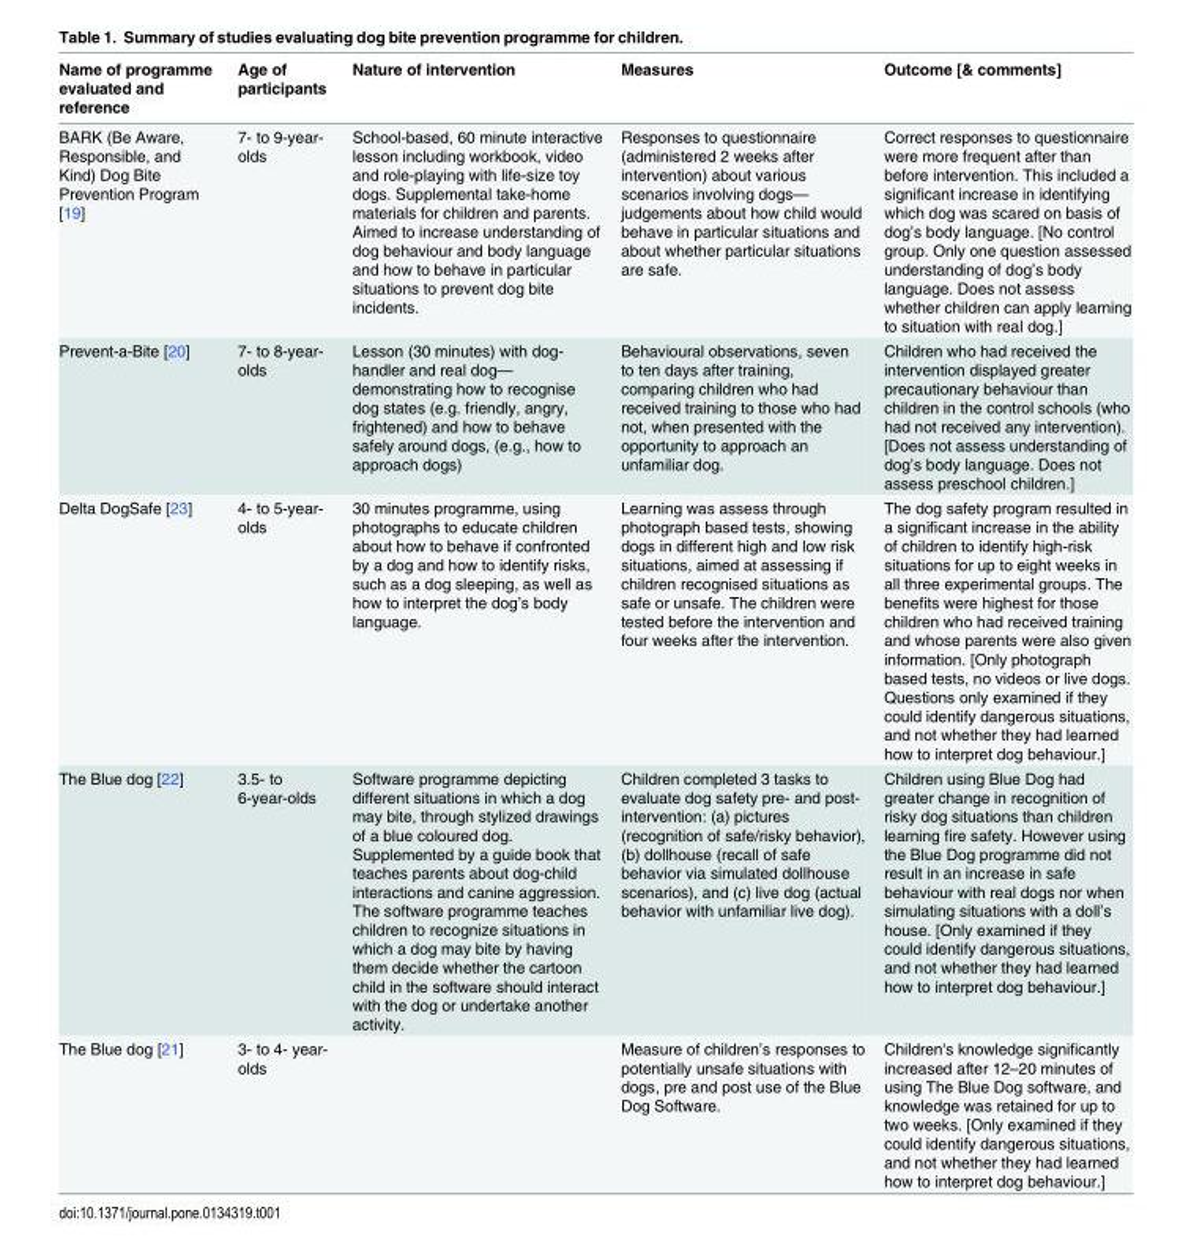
<table><thead><tr><td>Name of programme evaluated and reference</td><td>Age of participants</td><td>Nature of intervention</td><td>Measures</td><td>Outcome [&amp; comments]</td></tr></thead><tbody><tr><td>BARK (Be Aware, Responsible, and Kind) Dog Bite Prevention Program [19]</td><td>7- to 9-year- olds</td><td>School-based, 60 minute interactive lesson including workbook, video and role-playing with life-size toy dogs. Supplemental take-home materials for children and parents. Aimed to increase understanding of dog behaviour and body language and how to behave in particular situations to prevent dog bite incidents.</td><td>Responses to questionnaire (administered 2 weeks after intervention) about various scenarios involving dogs— judgements about how child would behave in particular situations and about whether particular situations are safe.</td><td>Correct responses to questionnaire were more frequent after than before intervention. This included a significant increase in identifying which dog was scared on basis of dog’s body language. [No control group. Only one question assessed understanding of dog’s body language. Does not assess whether children can apply learning to situation with real dog.]</td></tr><tr><td>Prevent-a-Bite [20]</td><td>7- to 8-year- olds</td><td>Lesson (30 minutes) with dog- handler and real dog— demonstrating how to recognise dog states (e.g. friendly, angry, frightened) and how to behave safely around dogs, (e.g., how to approach dogs)</td><td>Behavioural observations, seven to ten days after training, comparing children who had received training to those who had not, when presented with the opportunity to approach an unfamiliar dog.</td><td>Children who had received the intervention displayed greater precautionary behaviour than children in the control schools (who had not received any intervention). [Does not assess understanding of dog’s body language. Does not assess preschool children.]</td></tr><tr><td>Delta DogSafe [23]</td><td>4- to 5-year- olds</td><td>30 minutes programme, using photographs to educate children about how to behave if confronted by a dog and how to identify risks, such as a dog sleeping, as well as how to interpret the dog’s body language.</td><td>Learning was assess through photograph based tests, showing dogs in different high and low risk situations, aimed at assessing if children recognised situations as safe or unsafe. The children were tested before the intervention and four weeks after the intervention.</td><td>The dog safety program resulted in a significant increase in the ability of children to identify high-risk situations for up to eight weeks in all three experimental groups. The benefits were highest for those children who had received training and whose parents were also given information. [Only photograph based tests, no videos or live dogs. Questions only examined if they could identify dangerous situations, and not whether they had learned how to interpret dog behaviour.]</td></tr><tr><td>The Blue dog [22]</td><td>3.5- to 6-year-olds</td><td>Software programme depicting different situations in which a dog may bite, through stylized drawings of a blue coloured dog. Supplemented by a guide book that teaches parents about dog-child interactions and canine aggression. The software programme teaches children to recognize situations in which a dog may bite by having them decide whether the cartoon child in the software should interact with the dog or undertake another activity.</td><td>Children completed 3 tasks to evaluate dog safety pre- and post- intervention: (a) pictures (recognition of safe/risky behavior), (b) dollhouse (recall of safe behavior via simulated dollhouse scenarios), and (c) live dog (actual behavior with unfamiliar live dog).</td><td>Children using Blue Dog had greater change in recognition of risky dog situations than children learning fire safety. However using the Blue Dog programme did not result in an increase in safe behaviour with real dogs nor when simulating situations with a doll’s house. [Only examined if they could identify dangerous situations, and not whether they had learned how to interpret dog behaviour.]</td></tr><tr><td>The Blue dog [21]</td><td>3- to 4- year- olds</td><td></td><td>Measure of children’s responses to potentially unsafe situations with dogs, pre and post use of the Blue Dog Software.</td><td>Children&#x27;s knowledge significantly increased after 12–20 minutes of using The Blue Dog software, and knowledge was retained for up to two weeks. [Only examined if they could identify dangerous situations, and not whether they had learned how to interpret dog behaviour.]</td></tr></tbody></table>